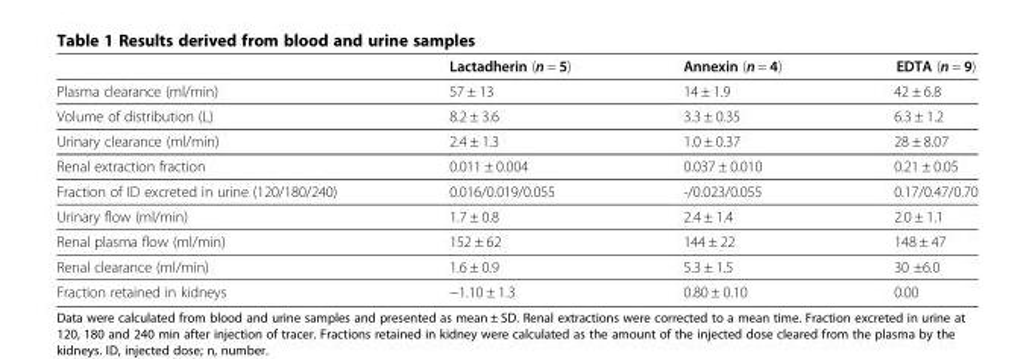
<table><thead><tr><td></td><td>Lactadherin (n = 5)</td><td>Annexin (n = 4)</td><td>EDTA (n = 9)</td></tr></thead><tbody><tr><td>Plasma clearance (ml/min)</td><td>57 ± 13</td><td>14 ± 1.9</td><td>42 ± 6.8</td></tr><tr><td>Volume of distribution (L)</td><td>8.2 ± 3.6</td><td>3.3 ± 0.35</td><td>6.3 ± 1.2</td></tr><tr><td>Urinary clearance (ml/min)</td><td>2.4 ± 1.3</td><td>1.0 ± 0.37</td><td>28 ± 8.07</td></tr><tr><td>Renal extraction fraction</td><td>0.011 ± 0.004</td><td>0.037 ± 0.010</td><td>0.21 ± 0.05</td></tr><tr><td>Fraction of ID excreted in urine (120/180/240)</td><td>0.016/0.019/0.055</td><td>-/0.023/0.055</td><td>0.17/0.47/0.70</td></tr><tr><td>Urinary flow (ml/min)</td><td>1.7 ± 0.8</td><td>2.4 ± 1.4</td><td>2.0 ± 1.1</td></tr><tr><td>Renal plasma flow (ml/min)</td><td>152 ± 62</td><td>144 ± 22</td><td>148 ± 47</td></tr><tr><td>Renal clearance (ml/min)</td><td>1.6 ± 0.9</td><td>5.3 ± 1.5</td><td>30 ±6.0</td></tr><tr><td>Fraction retained in kidneys</td><td>−1.10 ± 1.3</td><td>0.80 ± 0.10</td><td>0.00</td></tr></tbody></table>